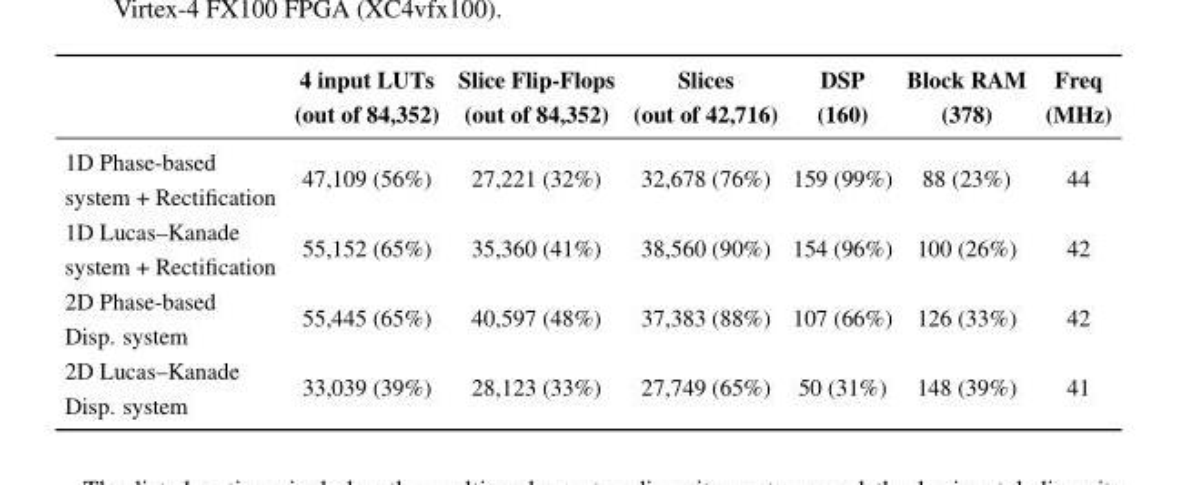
<table><thead><tr><td></td><td>4 input LUTs (out of 84,352)</td><td>Slice Flip-Flops (out of 84,352)</td><td>Slices (out of 42,716)</td><td>DSP (160)</td><td>Block RAM (378)</td><td>Freq (MHz)</td></tr></thead><tbody><tr><td>1D Phase-based system + Rectification</td><td>47,109 (56%)</td><td>27,221 (32%)</td><td>32,678 (76%)</td><td>159 (99%)</td><td>88 (23%)</td><td>44</td></tr><tr><td>1D Lucas–Kanade system + Rectification</td><td>55,152 (65%)</td><td>35,360 (41%)</td><td>38,560 (90%)</td><td>154 (96%)</td><td>100 (26%)</td><td>42</td></tr><tr><td>2D Phase-based Disp. system</td><td>55,445 (65%)</td><td>40,597 (48%)</td><td>37,383 (88%)</td><td>107 (66%)</td><td>126 (33%)</td><td>42</td></tr><tr><td>2D Lucas–Kanade Disp. system</td><td>33,039 (39%)</td><td>28,123 (33%)</td><td>27,749 (65%)</td><td>50 (31%)</td><td>148 (39%)</td><td>41</td></tr></tbody></table>